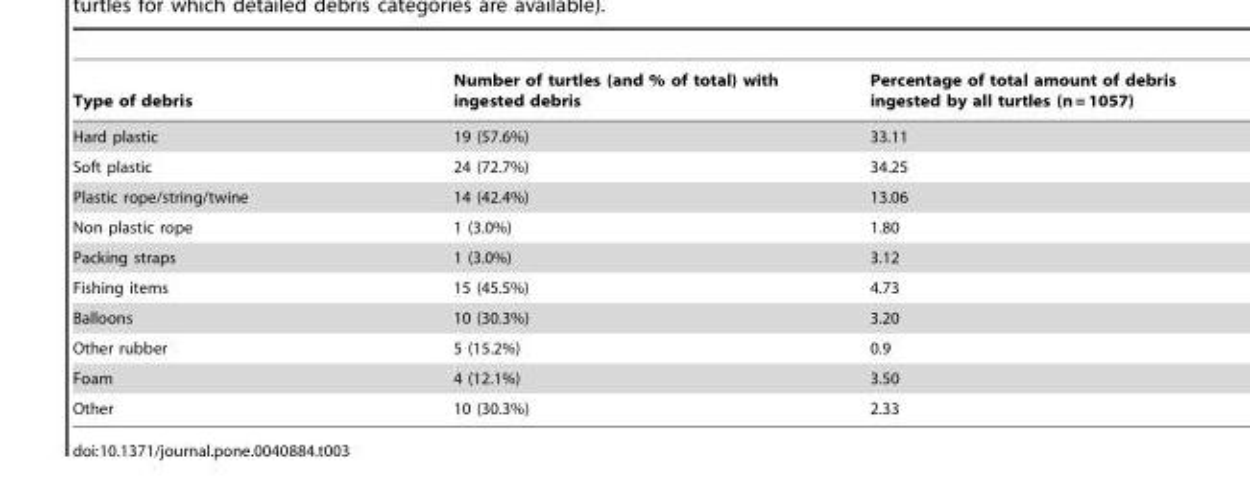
<table><thead><tr><td>Type of debris</td><td>Number of turtles (and % of total) with ingested debris</td><td>Percentage of total amount of debris ingested by all turtles (n = 1057)</td></tr></thead><tbody><tr><td>Hard plastic</td><td>19 (57.6%)</td><td>33.11</td></tr><tr><td>Soft plastic</td><td>24 (72.7%)</td><td>34.25</td></tr><tr><td>Plastic rope/string/twine</td><td>14 (42.4%)</td><td>13.06</td></tr><tr><td>Non plastic rope</td><td>1 (3.0%)</td><td>1.80</td></tr><tr><td>Packing straps</td><td>1 (3.0%)</td><td>3.12</td></tr><tr><td>Fishing items</td><td>15 (45.5%)</td><td>4.73</td></tr><tr><td>Balloons</td><td>10 (30.3%)</td><td>3.20</td></tr><tr><td>Other rubber</td><td>5 (15.2%)</td><td>0.9</td></tr><tr><td>Foam</td><td>4 (12.1%)</td><td>3.50</td></tr><tr><td>Other</td><td>10 (30.3%)</td><td>2.33</td></tr></tbody></table>